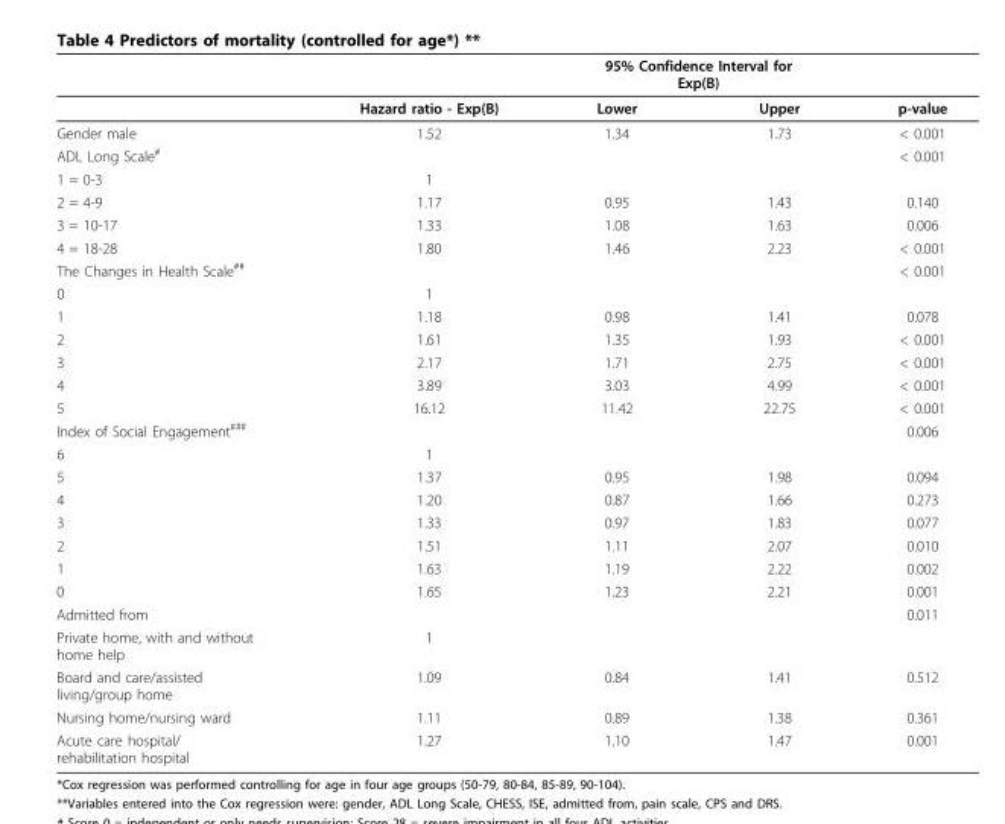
<table><thead><tr><td rowspan="2"></td><td rowspan="2">Hazard ratio - Exp(B)</td><td colspan="2">95% Confidence Interval for Exp(B)</td><td rowspan="2">p-value</td></tr><tr><td>Lower</td><td>Upper</td></tr></thead><tbody><tr><td>Gender male</td><td>1.52</td><td>1.34</td><td>1.73</td><td>&lt; 0.001</td></tr><tr><td>ADL Long Scale<sup>#</sup></td><td></td><td></td><td></td><td>&lt; 0.001</td></tr><tr><td>1 = 0-3</td><td>1</td><td></td><td></td><td></td></tr><tr><td>2 = 4-9</td><td>1.17</td><td>0.95</td><td>1.43</td><td>0.140</td></tr><tr><td>3 = 10-17</td><td>1.33</td><td>1.08</td><td>1.63</td><td>0.006</td></tr><tr><td>4 = 18-28</td><td>1.80</td><td>1.46</td><td>2.23</td><td>&lt; 0.001</td></tr><tr><td>The Changes in Health Scale<sup>##</sup></td><td></td><td></td><td></td><td>&lt; 0.001</td></tr><tr><td>0</td><td>1</td><td></td><td></td><td></td></tr><tr><td>1</td><td>1.18</td><td>0.98</td><td>1.41</td><td>0.078</td></tr><tr><td>2</td><td>1.61</td><td>1.35</td><td>1.93</td><td>&lt; 0.001</td></tr><tr><td>3</td><td>2.17</td><td>1.71</td><td>2.75</td><td>&lt; 0.001</td></tr><tr><td>4</td><td>3.89</td><td>3.03</td><td>4.99</td><td>&lt; 0.001</td></tr><tr><td>5</td><td>16.12</td><td>11.42</td><td>22.75</td><td>&lt; 0.001</td></tr><tr><td>Index of Social Engagement<sup>###</sup></td><td></td><td></td><td></td><td>0.006</td></tr><tr><td>6</td><td>1</td><td></td><td></td><td></td></tr><tr><td>5</td><td>1.37</td><td>0.95</td><td>1.98</td><td>0.094</td></tr><tr><td>4</td><td>1.20</td><td>0.87</td><td>1.66</td><td>0.273</td></tr><tr><td>3</td><td>1.33</td><td>0.97</td><td>1.83</td><td>0.077</td></tr><tr><td>2</td><td>1.51</td><td>1.11</td><td>2.07</td><td>0.010</td></tr><tr><td>1</td><td>1.63</td><td>1.19</td><td>2.22</td><td>0.002</td></tr><tr><td>0</td><td>1.65</td><td>1.23</td><td>2.21</td><td>0.001</td></tr><tr><td>Admitted from</td><td></td><td></td><td></td><td>0.011</td></tr><tr><td>Private home, with and without home help</td><td>1</td><td></td><td></td><td></td></tr><tr><td>Board and care/assisted living/group home</td><td>1.09</td><td>0.84</td><td>1.41</td><td>0.512</td></tr><tr><td>Nursing home/nursing ward</td><td>1.11</td><td>0.89</td><td>1.38</td><td>0.361</td></tr><tr><td>Acute care hospital/ rehabilitation hospital</td><td>1.27</td><td>1.10</td><td>1.47</td><td>0.001</td></tr></tbody></table>